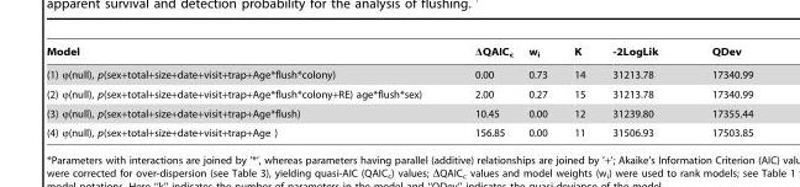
<table><thead><tr><td>Model</td><td>ΔQAIC<sub>c</sub></td><td>w<sub>i</sub></td><td>K</td><td>-2LogLik</td><td>QDev</td></tr></thead><tbody><tr><td>(1) φ(null), p(sex+total+size+date+visit+trap+Age*flush*colony)</td><td>0.00</td><td>0.73</td><td>14</td><td>31213.78</td><td>17340.99</td></tr><tr><td>(2) φ(null), p(sex+total+size+date+visit+trap+Age*flush*colony+RE) age*flush*sex)</td><td>2.00</td><td>0.27</td><td>15</td><td>31213.78</td><td>17340.99</td></tr><tr><td>(3) φ(null), p(sex+total+size+date+visit+trap+Age*flush)</td><td>10.45</td><td>0.00</td><td>12</td><td>31239.80</td><td>17355.44</td></tr><tr><td>(4) φ(null), p(sex+total+size+date+visit+trap+Age )</td><td>156.85</td><td>0.00</td><td>11</td><td>31506.93</td><td>17503.85</td></tr></tbody></table>